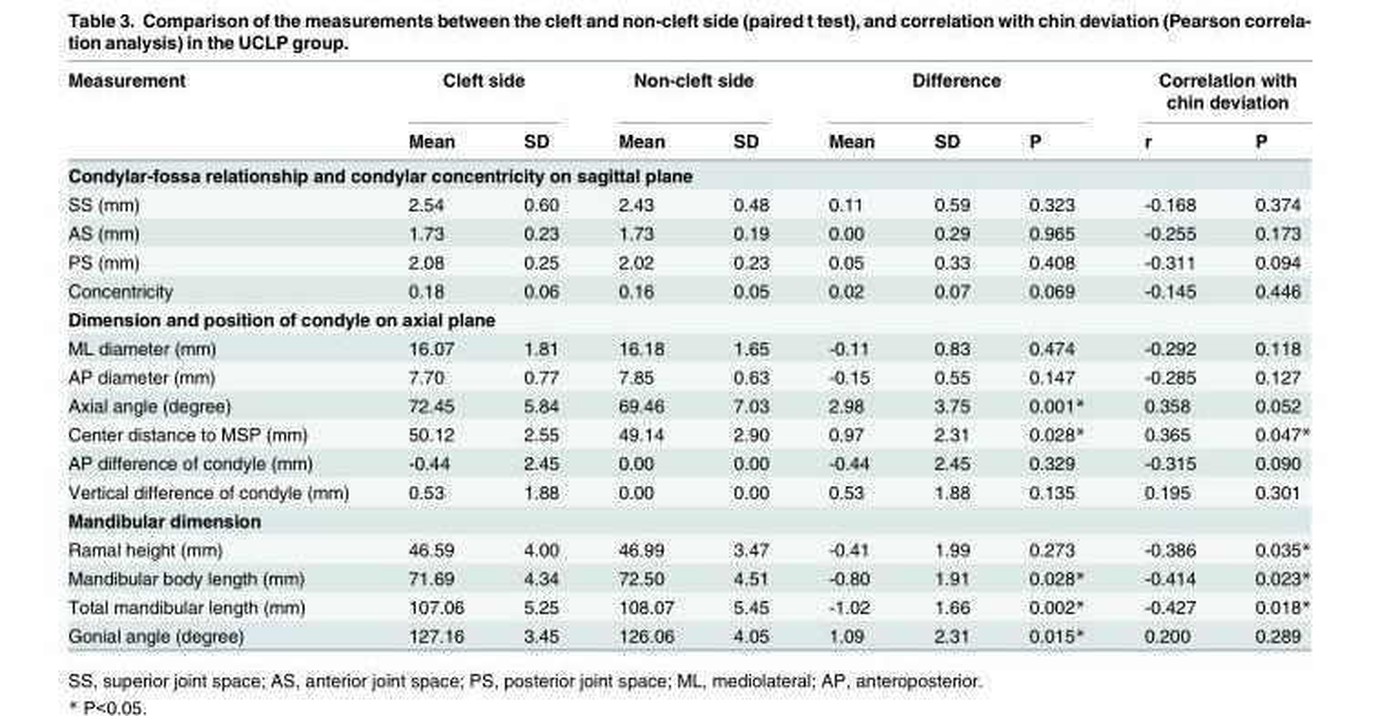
<table><thead><tr><td rowspan="2">Measurement</td><td colspan="2">Cleft side</td><td colspan="2">Non-cleft side</td><td colspan="3">Difference</td><td colspan="2">Correlation with chin deviation</td></tr><tr><td>Mean</td><td>SD</td><td>Mean</td><td>SD</td><td>Mean</td><td>SD</td><td>P</td><td>r</td><td>P</td></tr></thead><tbody><tr><td colspan="10">Condylar-fossa relationship and condylar concentricity on sagittal plane</td></tr><tr><td>SS (mm)</td><td>2.54</td><td>0.60</td><td>2.43</td><td>0.48</td><td>0.11</td><td>0.59</td><td>0.323</td><td>-0.168</td><td>0.374</td></tr><tr><td>AS (mm)</td><td>1.73</td><td>0.23</td><td>1.73</td><td>0.19</td><td>0.00</td><td>0.29</td><td>0.965</td><td>-0.255</td><td>0.173</td></tr><tr><td>PS (mm)</td><td>2.08</td><td>0.25</td><td>2.02</td><td>0.23</td><td>0.05</td><td>0.33</td><td>0.408</td><td>-0.311</td><td>0.094</td></tr><tr><td>Concentricity</td><td>0.18</td><td>0.06</td><td>0.16</td><td>0.05</td><td>0.02</td><td>0.07</td><td>0.069</td><td>-0.145</td><td>0.446</td></tr><tr><td colspan="10">Dimension and position of condyle on axial plane</td></tr><tr><td>ML diameter (mm)</td><td>16.07</td><td>1.81</td><td>16.18</td><td>1.65</td><td>-0.11</td><td>0.83</td><td>0.474</td><td>-0.292</td><td>0.118</td></tr><tr><td>AP diameter (mm)</td><td>7.70</td><td>0.77</td><td>7.85</td><td>0.63</td><td>-0.15</td><td>0.55</td><td>0.147</td><td>-0.285</td><td>0.127</td></tr><tr><td>Axial angle (degree)</td><td>72.45</td><td>5.84</td><td>69.46</td><td>7.03</td><td>2.98</td><td>3.75</td><td>0.001*</td><td>0.358</td><td>0.052</td></tr><tr><td>Center distance to MSP (mm)</td><td>50.12</td><td>2.55</td><td>49.14</td><td>2.90</td><td>0.97</td><td>2.31</td><td>0.028*</td><td>0.365</td><td>0.047*</td></tr><tr><td>AP difference of condyle (mm)</td><td>-0.44</td><td>2.45</td><td>0.00</td><td>0.00</td><td>-0.44</td><td>2.45</td><td>0.329</td><td>-0.315</td><td>0.090</td></tr><tr><td>Vertical difference of condyle (mm)</td><td>0.53</td><td>1.88</td><td>0.00</td><td>0.00</td><td>0.53</td><td>1.88</td><td>0.135</td><td>0.195</td><td>0.301</td></tr><tr><td colspan="10">Mandibular dimension</td></tr><tr><td>Ramal height (mm)</td><td>46.59</td><td>4.00</td><td>46.99</td><td>3.47</td><td>-0.41</td><td>1.99</td><td>0.273</td><td>-0.386</td><td>0.035*</td></tr><tr><td>Mandibular body length (mm)</td><td>71.69</td><td>4.34</td><td>72.50</td><td>4.51</td><td>-0.80</td><td>1.91</td><td>0.028*</td><td>-0.414</td><td>0.023*</td></tr><tr><td>Total mandibular length (mm)</td><td>107.06</td><td>5.25</td><td>108.07</td><td>5.45</td><td>-1.02</td><td>1.66</td><td>0.002*</td><td>-0.427</td><td>0.018*</td></tr><tr><td>Gonial angle (degree)</td><td>127.16</td><td>3.45</td><td>126.06</td><td>4.05</td><td>1.09</td><td>2.31</td><td>0.015*</td><td>0.200</td><td>0.289</td></tr></tbody></table>